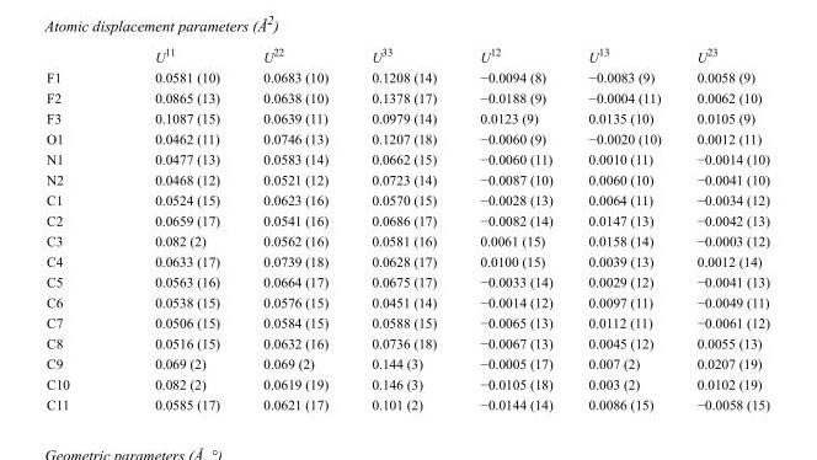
<table><thead><tr><td></td><td>U<sup>11</sup></td><td>U<sup>22</sup></td><td>U<sup>33</sup></td><td>U<sup>12</sup></td><td>U<sup>13</sup></td><td>U<sup>23</sup></td></tr></thead><tbody><tr><td>F1</td><td>0.0581 (10)</td><td>0.0683 (10)</td><td>0.1208 (14)</td><td>−0.0094 (8)</td><td>−0.0083 (9)</td><td>0.0058 (9)</td></tr><tr><td>F2</td><td>0.0865 (13)</td><td>0.0638 (10)</td><td>0.1378 (17)</td><td>−0.0188 (9)</td><td>−0.0004 (11)</td><td>0.0062 (10)</td></tr><tr><td>F3</td><td>0.1087 (15)</td><td>0.0639 (11)</td><td>0.0979 (14)</td><td>0.0123 (9)</td><td>0.0135 (10)</td><td>0.0105 (9)</td></tr><tr><td>O1</td><td>0.0462 (11)</td><td>0.0746 (13)</td><td>0.1207 (18)</td><td>−0.0060 (9)</td><td>−0.0020 (10)</td><td>0.0012 (11)</td></tr><tr><td>N1</td><td>0.0477 (13)</td><td>0.0583 (14)</td><td>0.0662 (15)</td><td>−0.0060 (11)</td><td>0.0010 (11)</td><td>−0.0014 (10)</td></tr><tr><td>N2</td><td>0.0468 (12)</td><td>0.0521 (12)</td><td>0.0723 (14)</td><td>−0.0087 (10)</td><td>0.0060 (10)</td><td>−0.0041 (10)</td></tr><tr><td>C1</td><td>0.0524 (15)</td><td>0.0623 (16)</td><td>0.0570 (15)</td><td>−0.0028 (13)</td><td>0.0064 (11)</td><td>−0.0034 (12)</td></tr><tr><td>C2</td><td>0.0659 (17)</td><td>0.0541 (16)</td><td>0.0686 (17)</td><td>−0.0082 (14)</td><td>0.0147 (13)</td><td>−0.0042 (13)</td></tr><tr><td>C3</td><td>0.082 (2)</td><td>0.0562 (16)</td><td>0.0581 (16)</td><td>0.0061 (15)</td><td>0.0158 (14)</td><td>−0.0003 (12)</td></tr><tr><td>C4</td><td>0.0633 (17)</td><td>0.0739 (18)</td><td>0.0628 (17)</td><td>0.0100 (15)</td><td>0.0039 (13)</td><td>0.0012 (14)</td></tr><tr><td>C5</td><td>0.0563 (16)</td><td>0.0664 (17)</td><td>0.0675 (17)</td><td>−0.0033 (14)</td><td>0.0029 (12)</td><td>−0.0041 (13)</td></tr><tr><td>C6</td><td>0.0538 (15)</td><td>0.0576 (15)</td><td>0.0451 (14)</td><td>−0.0014 (12)</td><td>0.0097 (11)</td><td>−0.0049 (11)</td></tr><tr><td>C7</td><td>0.0506 (15)</td><td>0.0584 (15)</td><td>0.0588 (15)</td><td>−0.0065 (13)</td><td>0.0112 (11)</td><td>−0.0061 (12)</td></tr><tr><td>C8</td><td>0.0516 (15)</td><td>0.0632 (16)</td><td>0.0736 (18)</td><td>−0.0067 (13)</td><td>0.0045 (12)</td><td>0.0055 (13)</td></tr><tr><td>C9</td><td>0.069 (2)</td><td>0.069 (2)</td><td>0.144 (3)</td><td>−0.0005 (17)</td><td>0.007 (2)</td><td>0.0207 (19)</td></tr><tr><td>C10</td><td>0.082 (2)</td><td>0.0619 (19)</td><td>0.146 (3)</td><td>−0.0105 (18)</td><td>0.003 (2)</td><td>0.0102 (19)</td></tr><tr><td>C11</td><td>0.0585 (17)</td><td>0.0621 (17)</td><td>0.101 (2)</td><td>−0.0144 (14)</td><td>0.0086 (15)</td><td>−0.0058 (15)</td></tr></tbody></table>